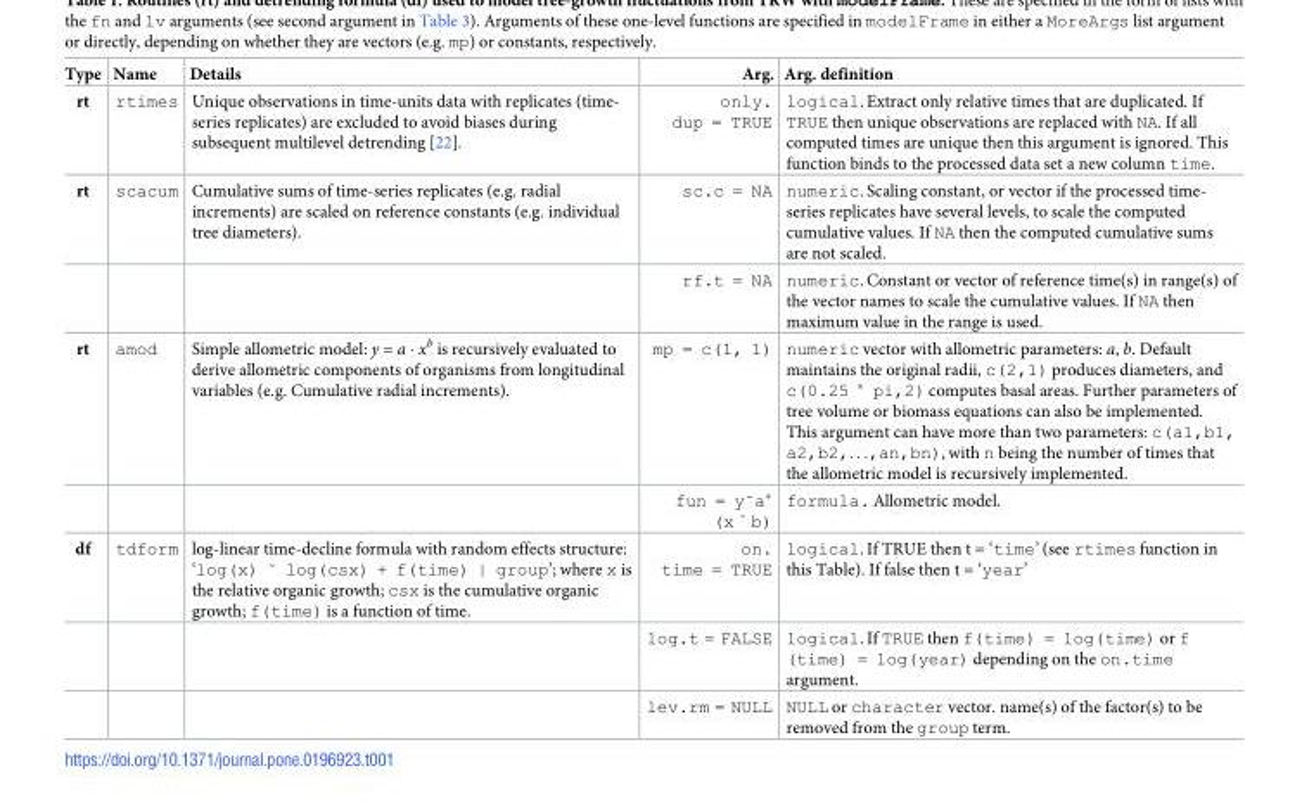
<table><thead><tr><td>Type</td><td>Name</td><td>Details</td><td>Arg.</td><td>Arg. definition</td></tr></thead><tbody><tr><td>rt</td><td>rtimes</td><td>Unique observations in time-units data with replicates (time- series replicates) are excluded to avoid biases during subsequent multilevel detrending [22].</td><td>only. dup = TRUE</td><td>logical. Extract only relative times that are duplicated. If TRUE then unique observations are replaced with NA. If all computed times are unique then this argument is ignored. This function binds to the processed data set a new column time.</td></tr><tr><td rowspan="2">rt</td><td>scacum</td><td>Cumulative sums of time-series replicates (e.g. radial increments) are scaled on reference constants (e.g. individual tree diameters).</td><td>sc.c = NA</td><td>numeric. Scaling constant, or vector if the processed time- series replicates have several levels, to scale the computed cumulative values. If NA then the computed cumulative sums are not scaled.</td></tr><tr><td></td><td></td><td>rf.t = NA</td><td>numeric. Constant or vector of reference time(s) in range(s) of the vector names to scale the cumulative values. If NA then maximum value in the range is used.</td></tr><tr><td rowspan="2">rt</td><td>amod</td><td>Simple allometric model: y = a ⋅ x<sup>b</sup> is recursively evaluated to derive allometric components of organisms from longitudinal variables (e.g. Cumulative radial increments).</td><td>mp = c(1, 1)</td><td>numeric vector with allometric parameters: a, b. Default maintains the original radii, c(2,1) produces diameters, and c(0.25 � pi,2) computes basal areas. Further parameters of tree volume or biomass equations can also be implemented. This argument can have more than two parameters: c(a1,b1, a2,b2,.. .,an,bn), with n being the number of times that the allometric model is recursively implemented.</td></tr><tr><td></td><td></td><td>fun = y˜a� (x ^ b)</td><td>formula. Allometric model.</td></tr><tr><td rowspan="3">df</td><td>tdform</td><td>log-linear time-decline formula with random effects structure: ‘log(x) ˜ log(csx) + f(time) | group’; where x is the relative organic growth; csx is the cumulative organic growth; f(time) is a function of time.</td><td>on. time = TRUE</td><td>logical. If TRUE then t = ‘time’ (see rtimes function in this Table). If false then t = ‘year’</td></tr><tr><td></td><td></td><td>log.t = FALSE</td><td>logical. If TRUE then f(time) = log(time) or f (time) = log(year) depending on the on.time argument.</td></tr><tr><td></td><td></td><td>lev.rm = NULL</td><td>NULL or character vector. name(s) of the factor(s) to be removed from the group term.</td></tr></tbody></table>